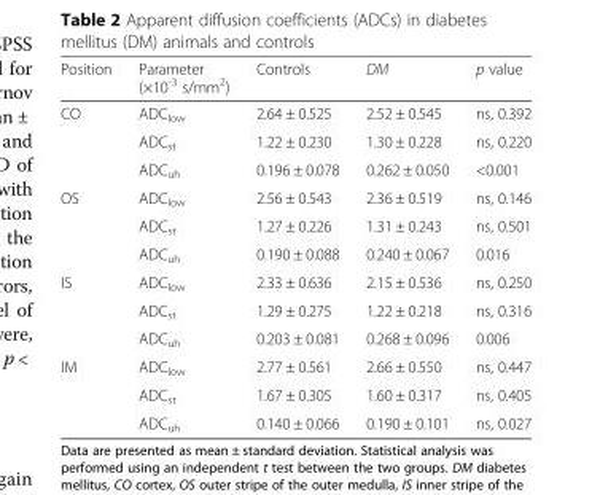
<table><thead><tr><td>Position</td><td>Parameter (×10<sup>-3</sup> s/mm<sup>2</sup>)</td><td>Controls</td><td>DM</td><td>p value</td></tr></thead><tbody><tr><td rowspan="3">CO</td><td>ADC<sub>low</sub></td><td>2.64 ± 0.525</td><td>2.52 ± 0.545</td><td>ns, 0.392</td></tr><tr><td>ADC<sub>st</sub></td><td>1.22 ± 0.230</td><td>1.30 ± 0.228</td><td>ns, 0.220</td></tr><tr><td>ADC<sub>uh</sub></td><td>0.196 ± 0.078</td><td>0.262 ± 0.050</td><td>&lt;0.001</td></tr><tr><td rowspan="3">OS</td><td>ADC<sub>low</sub></td><td>2.56 ± 0.543</td><td>2.36 ± 0.519</td><td>ns, 0.146</td></tr><tr><td>ADC<sub>st</sub></td><td>1.27 ± 0.226</td><td>1.31 ± 0.243</td><td>ns, 0.501</td></tr><tr><td>ADC<sub>uh</sub></td><td>0.190 ± 0.088</td><td>0.240 ± 0.067</td><td>0.016</td></tr><tr><td rowspan="3">IS</td><td>ADC<sub>low</sub></td><td>2.33 ± 0.636</td><td>2.15 ± 0.536</td><td>ns, 0.250</td></tr><tr><td>ADC<sub>st</sub></td><td>1.29 ± 0.275</td><td>1.22 ± 0.218</td><td>ns, 0.316</td></tr><tr><td>ADC<sub>uh</sub></td><td>0.203 ± 0.081</td><td>0.268 ± 0.096</td><td>0.006</td></tr><tr><td rowspan="3">IM</td><td>ADC<sub>low</sub></td><td>2.77 ± 0.561</td><td>2.66 ± 0.550</td><td>ns, 0.447</td></tr><tr><td>ADC<sub>st</sub></td><td>1.67 ± 0.305</td><td>1.60 ± 0.317</td><td>ns, 0.405</td></tr><tr><td>ADC<sub>uh</sub></td><td>0.140 ± 0.066</td><td>0.190 ± 0.101</td><td>ns, 0.027</td></tr></tbody></table>